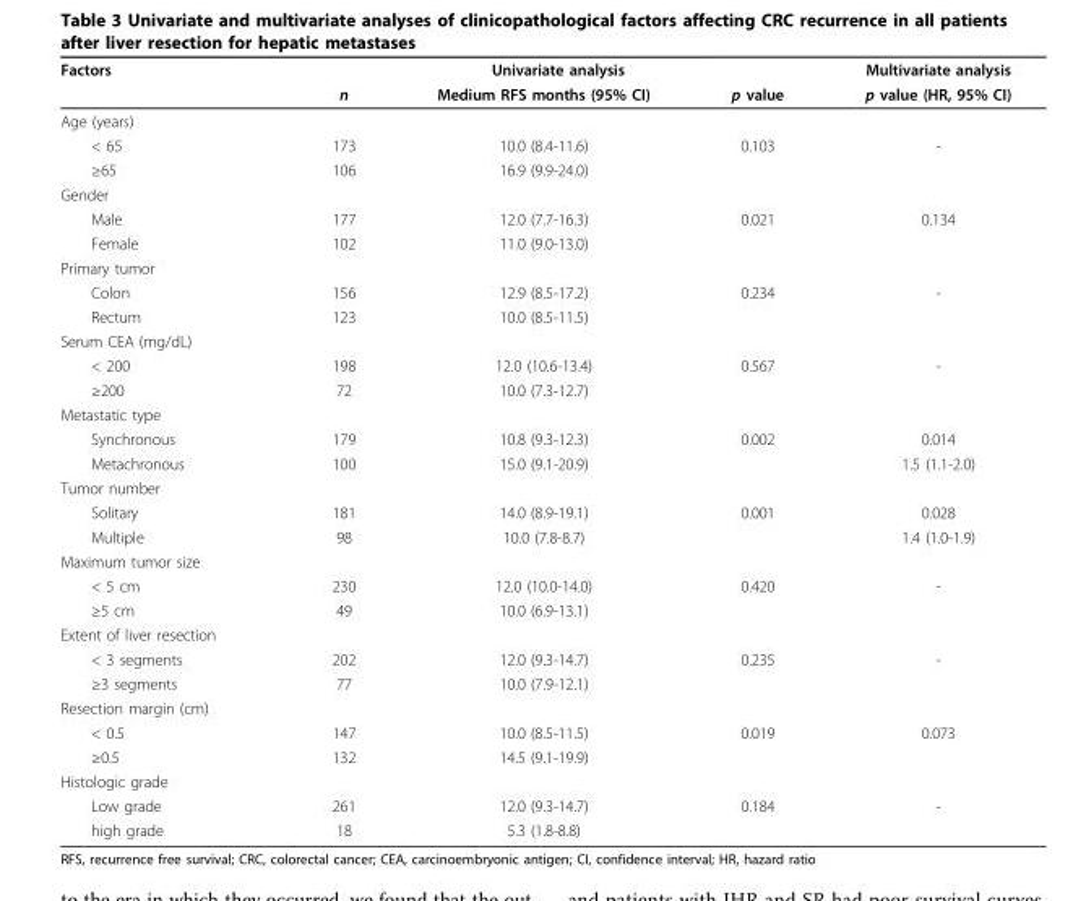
<table><thead><tr><td rowspan="2">Factors</td><td colspan="3">Univariate analysis</td><td rowspan="2">Multivariate analysis p value (HR, 95% CI)</td></tr><tr><td>n</td><td>Medium RFS months (95% CI)</td><td>p value</td></tr></thead><tbody><tr><td colspan="5">Age (years)</td></tr><tr><td>&lt; 65</td><td>173</td><td>10.0 (8.4-11.6)</td><td>0.103</td><td>-</td></tr><tr><td>≥65</td><td>106</td><td>16.9 (9.9-24.0)</td><td></td><td></td></tr><tr><td colspan="5">Gender</td></tr><tr><td>Male</td><td>177</td><td>12.0 (7.7-16.3)</td><td>0.021</td><td>0.134</td></tr><tr><td>Female</td><td>102</td><td>11.0 (9.0-13.0)</td><td></td><td></td></tr><tr><td colspan="5">Primary tumor</td></tr><tr><td>Colon</td><td>156</td><td>12.9 (8.5-17.2)</td><td>0.234</td><td>-</td></tr><tr><td>Rectum</td><td>123</td><td>10.0 (8.5-11.5)</td><td></td><td></td></tr><tr><td colspan="5">Serum CEA (mg/dL)</td></tr><tr><td>&lt; 200</td><td>198</td><td>12.0 (10.6-13.4)</td><td>0.567</td><td>-</td></tr><tr><td>≥200</td><td>72</td><td>10.0 (7.3-12.7)</td><td></td><td></td></tr><tr><td colspan="5">Metastatic type</td></tr><tr><td>Synchronous</td><td>179</td><td>10.8 (9.3-12.3)</td><td>0.002</td><td>0.014</td></tr><tr><td>Metachronous</td><td>100</td><td>15.0 (9.1-20.9)</td><td></td><td>1.5 (1.1-2.0)</td></tr><tr><td colspan="5">Tumor number</td></tr><tr><td>Solitary</td><td>181</td><td>14.0 (8.9-19.1)</td><td>0.001</td><td>0.028</td></tr><tr><td>Multiple</td><td>98</td><td>10.0 (7.8-8.7)</td><td></td><td>1.4 (1.0-1.9)</td></tr><tr><td colspan="5">Maximum tumor size</td></tr><tr><td>&lt; 5 cm</td><td>230</td><td>12.0 (10.0-14.0)</td><td>0.420</td><td>-</td></tr><tr><td>≥5 cm</td><td>49</td><td>10.0 (6.9-13.1)</td><td></td><td></td></tr><tr><td colspan="5">Extent of liver resection</td></tr><tr><td>&lt; 3 segments</td><td>202</td><td>12.0 (9.3-14.7)</td><td>0.235</td><td>-</td></tr><tr><td>≥3 segments</td><td>77</td><td>10.0 (7.9-12.1)</td><td></td><td></td></tr><tr><td colspan="5">Resection margin (cm)</td></tr><tr><td>&lt; 0.5</td><td>147</td><td>10.0 (8.5-11.5)</td><td>0.019</td><td>0.073</td></tr><tr><td>≥0.5</td><td>132</td><td>14.5 (9.1-19.9)</td><td></td><td></td></tr><tr><td colspan="5">Histologic grade</td></tr><tr><td>Low grade</td><td>261</td><td>12.0 (9.3-14.7)</td><td>0.184</td><td>-</td></tr><tr><td>high grade</td><td>18</td><td>5.3 (1.8-8.8)</td><td></td><td></td></tr></tbody></table>